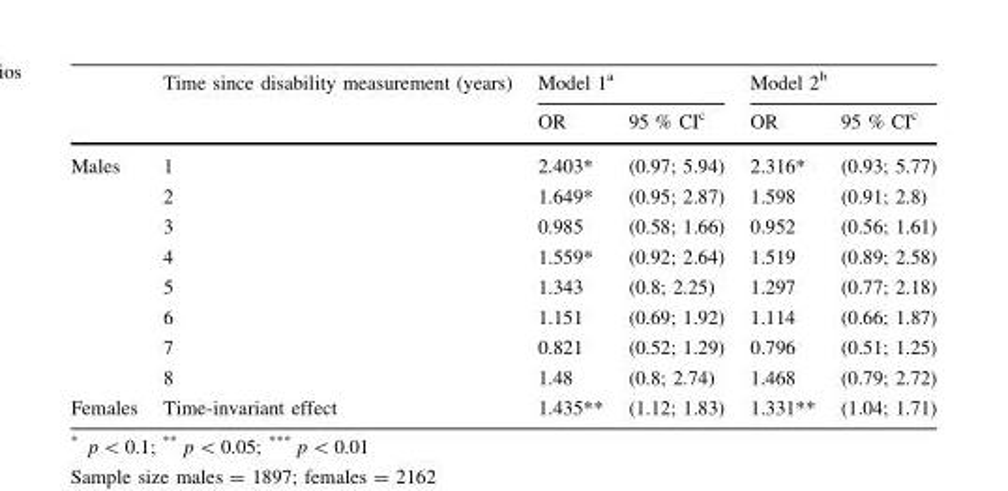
<table><thead><tr><td rowspan="2"></td><td rowspan="2">Time since disability measurement (years)</td><td colspan="2">Model 1<sup>a</sup></td><td colspan="2">Model 2<sup>b</sup></td></tr><tr><td>OR</td><td>95 % CI<sup>c</sup></td><td>OR</td><td>95 % CI<sup>c</sup></td></tr></thead><tbody><tr><td rowspan="8">Males</td><td>1</td><td>2.403*</td><td>(0.97; 5.94)</td><td>2.316*</td><td>(0.93; 5.77)</td></tr><tr><td>2</td><td>1.649*</td><td>(0.95; 2.87)</td><td>1.598</td><td>(0.91; 2.8)</td></tr><tr><td>3</td><td>0.985</td><td>(0.58; 1.66)</td><td>0.952</td><td>(0.56; 1.61)</td></tr><tr><td>4</td><td>1.559*</td><td>(0.92; 2.64)</td><td>1.519</td><td>(0.89; 2.58)</td></tr><tr><td>5</td><td>1.343</td><td>(0.8; 2.25)</td><td>1.297</td><td>(0.77; 2.18)</td></tr><tr><td>6</td><td>1.151</td><td>(0.69; 1.92)</td><td>1.114</td><td>(0.66; 1.87)</td></tr><tr><td>7</td><td>0.821</td><td>(0.52; 1.29)</td><td>0.796</td><td>(0.51; 1.25)</td></tr><tr><td>8</td><td>1.48</td><td>(0.8; 2.74)</td><td>1.468</td><td>(0.79; 2.72)</td></tr><tr><td>Females</td><td>Time-invariant effect</td><td>1.435**</td><td>(1.12; 1.83)</td><td>1.331**</td><td>(1.04; 1.71)</td></tr></tbody></table>